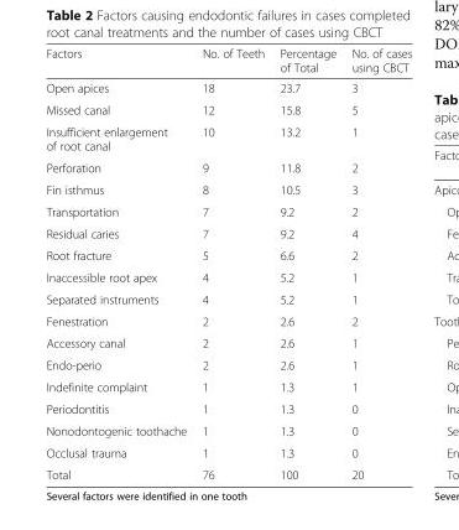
<table><thead><tr><td>Factors</td><td>No. of Teeth</td><td>Percentage of Total</td><td>No. of cases using CBCT</td></tr></thead><tbody><tr><td>Open apices</td><td>18</td><td>23.7</td><td>3</td></tr><tr><td>Missed canal</td><td>12</td><td>15.8</td><td>5</td></tr><tr><td>Insufficient enlargement of root canal</td><td>10</td><td>13.2</td><td>1</td></tr><tr><td>Perforation</td><td>9</td><td>11.8</td><td>2</td></tr><tr><td>Fin isthmus</td><td>8</td><td>10.5</td><td>3</td></tr><tr><td>Transportation</td><td>7</td><td>9.2</td><td>2</td></tr><tr><td>Residual caries</td><td>7</td><td>9.2</td><td>4</td></tr><tr><td>Root fracture</td><td>5</td><td>6.6</td><td>2</td></tr><tr><td>Inaccessible root apex</td><td>4</td><td>5.2</td><td>1</td></tr><tr><td>Separated instruments</td><td>4</td><td>5.2</td><td>1</td></tr><tr><td>Fenestration</td><td>2</td><td>2.6</td><td>2</td></tr><tr><td>Accessory canal</td><td>2</td><td>2.6</td><td>1</td></tr><tr><td>Endo-perio</td><td>2</td><td>2.6</td><td>1</td></tr><tr><td>Indefinite complaint</td><td>1</td><td>1.3</td><td>1</td></tr><tr><td>Periodontitis</td><td>1</td><td>1.3</td><td>0</td></tr><tr><td>Nonodontogenic toothache</td><td>1</td><td>1.3</td><td>0</td></tr><tr><td>Occlusal trauma</td><td>1</td><td>1.3</td><td>0</td></tr><tr><td>Total</td><td>76</td><td>100</td><td>20</td></tr></tbody></table>